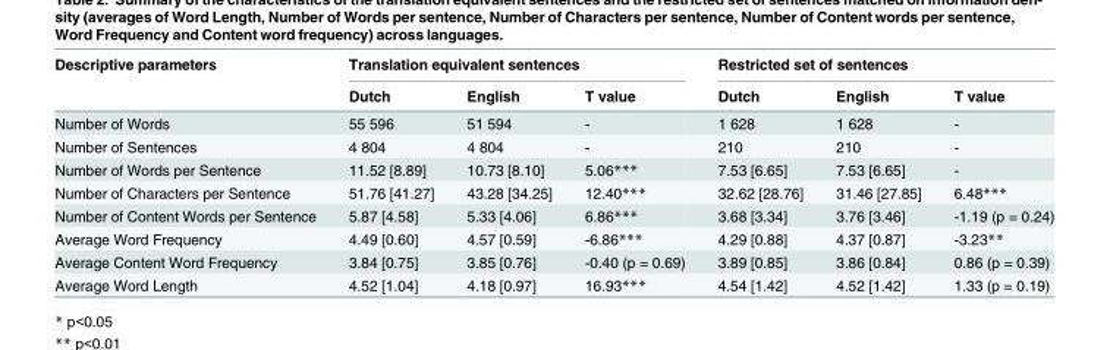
<table><thead><tr><td rowspan="2">Descriptive parameters</td><td colspan="3">Translation equivalent sentences</td><td colspan="3">Restricted set of sentences</td></tr><tr><td>Dutch</td><td>English</td><td>T value</td><td>Dutch</td><td>English</td><td>T value</td></tr></thead><tbody><tr><td>Number of Words</td><td>55 596</td><td>51 594</td><td>-</td><td>1 628</td><td>1 628</td><td>-</td></tr><tr><td>Number of Sentences</td><td>4 804</td><td>4 804</td><td>-</td><td>210</td><td>210</td><td>-</td></tr><tr><td>Number of Words per Sentence</td><td>11.52 [8.89]</td><td>10.73 [8.10]</td><td>5.06***</td><td>7.53 [6.65]</td><td>7.53 [6.65]</td><td>-</td></tr><tr><td>Number of Characters per Sentence</td><td>51.76 [41.27]</td><td>43.28 [34.25]</td><td>12.40***</td><td>32.62 [28.76]</td><td>31.46 [27.85]</td><td>6.48***</td></tr><tr><td>Number of Content Words per Sentence</td><td>5.87 [4.58]</td><td>5.33 [4.06]</td><td>6.86***</td><td>3.68 [3.34]</td><td>3.76 [3.46]</td><td>-1.19 (p = 0.24)</td></tr><tr><td>Average Word Frequency</td><td>4.49 [0.60]</td><td>4.57 [0.59]</td><td>-6.86***</td><td>4.29 [0.88]</td><td>4.37 [0.87]</td><td>-3.23**</td></tr><tr><td>Average Content Word Frequency</td><td>3.84 [0.75]</td><td>3.85 [0.76]</td><td>-0.40 (p = 0.69)</td><td>3.89 [0.85]</td><td>3.86 [0.84]</td><td>0.86 (p = 0.39)</td></tr><tr><td>Average Word Length</td><td>4.52 [1.04]</td><td>4.18 [0.97]</td><td>16.93***</td><td>4.54 [1.42]</td><td>4.52 [1.42]</td><td>1.33 (p = 0.19)</td></tr></tbody></table>